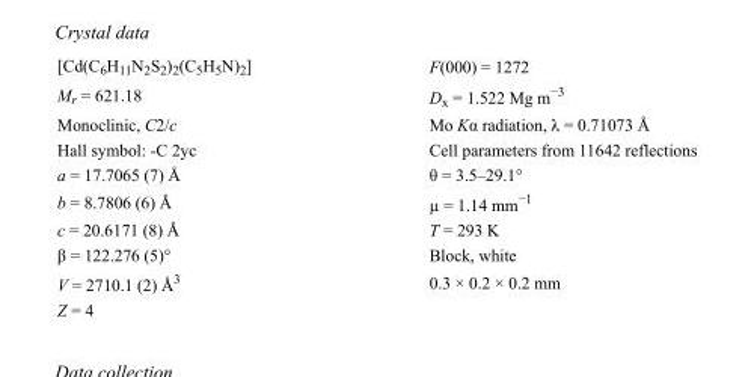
<table><tbody><tr><td>[Cd(C<sub>6</sub>H<sub>11</sub>N<sub>2</sub>S<sub>2</sub>)<sub>2</sub>(C<sub>5</sub>H<sub>5</sub>N)<sub>2</sub>]</td><td>F(000) = 1272</td></tr><tr><td>M<sub>r</sub> = 621.18</td><td>D<sub>x</sub> = 1.522 Mg m<sup>−3</sup></td></tr><tr><td>Monoclinic, C2/c</td><td>Mo Kα radiation, λ = 0.71073 Å</td></tr><tr><td>Hall symbol: -C 2yc</td><td>Cell parameters from 11642 reflections</td></tr><tr><td>a = 17.7065 (7) Å</td><td>θ = 3.5–29.1°</td></tr><tr><td>b = 8.7806 (6) Å</td><td>µ = 1.14 mm<sup>−1</sup></td></tr><tr><td>c = 20.6171 (8) Å</td><td>T = 293 K</td></tr><tr><td>β = 122.276 (5)°</td><td>Block, white</td></tr><tr><td>V = 2710.1 (2) Å<sup>3</sup></td><td>0.3 × 0.2 × 0.2 mm</td></tr><tr><td>Z = 4</td><td></td></tr></tbody></table>